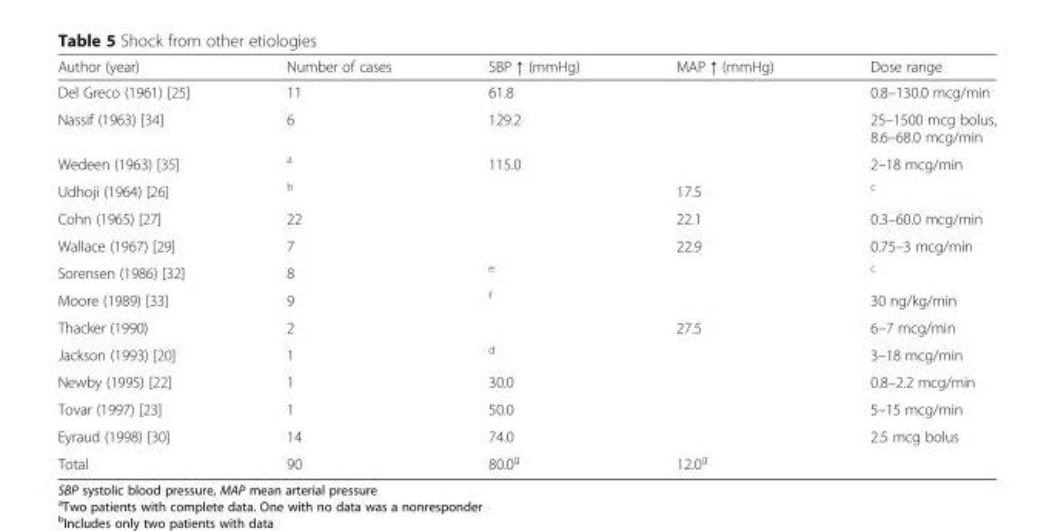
<table><thead><tr><td>Author (year)</td><td>Number of cases</td><td>SBP ↑ (mmHg)</td><td>MAP ↑ (mmHg)</td><td>Dose range</td></tr></thead><tbody><tr><td>Del Greco (1961) [25]</td><td>11</td><td>61.8</td><td></td><td>0.8–130.0 mcg/min</td></tr><tr><td>Nassif (1963) [34]</td><td>6</td><td>129.2</td><td></td><td>25–1500 mcg bolus, 8.6–68.0 mcg/min</td></tr><tr><td>Wedeen (1963) [35]</td><td><sup>a</sup></td><td>115.0</td><td></td><td>2–18 mcg/min</td></tr><tr><td>Udhoji (1964) [26]</td><td><sup>b</sup></td><td></td><td>17.5</td><td><sup>c</sup></td></tr><tr><td>Cohn (1965) [27]</td><td>22</td><td></td><td>22.1</td><td>0.3–60.0 mcg/min</td></tr><tr><td>Wallace (1967) [29]</td><td>7</td><td></td><td>22.9</td><td>0.75–3 mcg/min</td></tr><tr><td>Sorensen (1986) [32]</td><td>8</td><td><sup>e</sup></td><td></td><td><sup>c</sup></td></tr><tr><td>Moore (1989) [33]</td><td>9</td><td><sup>f</sup></td><td></td><td>30 ng/kg/min</td></tr><tr><td>Thacker (1990)</td><td>2</td><td></td><td>27.5</td><td>6–7 mcg/min</td></tr><tr><td>Jackson (1993) [20]</td><td>1</td><td><sup>d</sup></td><td></td><td>3–18 mcg/min</td></tr><tr><td>Newby (1995) [22]</td><td>1</td><td>30.0</td><td></td><td>0.8–2.2 mcg/min</td></tr><tr><td>Tovar (1997) [23]</td><td>1</td><td>50.0</td><td></td><td>5–15 mcg/min</td></tr><tr><td>Eyraud (1998) [30]</td><td>14</td><td>74.0</td><td></td><td>2.5 mcg bolus</td></tr><tr><td>Total</td><td>90</td><td>80.0<sup>g</sup></td><td>12.0<sup>g</sup></td><td></td></tr></tbody></table>